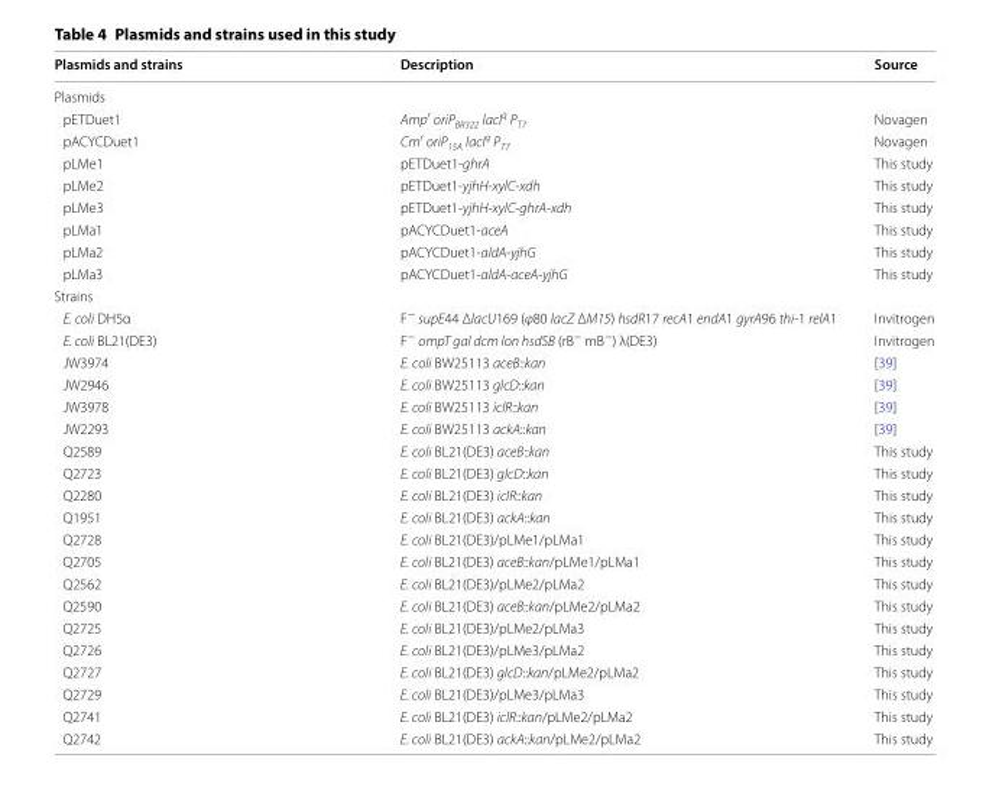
<table><thead><tr><td>Plasmids and strains</td><td>Description</td><td>Source</td></tr></thead><tbody><tr><td colspan="3">Plasmids</td></tr><tr><td>pETDuet1</td><td>Amp<sup>r</sup> oriP<sub>BR322</sub> lacI<sup>q</sup> P<sub>T7</sub></td><td>Novagen</td></tr><tr><td>pACYCDuet1</td><td>Cm<sup>r</sup> oriP<sub>15A</sub> lacI<sup>q</sup> P<sub>T7</sub></td><td>Novagen</td></tr><tr><td>pLMe1</td><td>pETDuet1-ghrA</td><td>This study</td></tr><tr><td>pLMe2</td><td>pETDuet1-yjhH-xylC-xdh</td><td>This study</td></tr><tr><td>pLMe3</td><td>pETDuet1-yjhH-xylC-ghrA-xdh</td><td>This study</td></tr><tr><td>pLMa1</td><td>pACYCDuet1-aceA</td><td>This study</td></tr><tr><td>pLMa2</td><td>pACYCDuet1-aldA-yjhG</td><td>This study</td></tr><tr><td>pLMa3</td><td>pACYCDuet1-aldA-aceA-yjhG</td><td>This study</td></tr><tr><td colspan="3">Strains</td></tr><tr><td>E. coli DH5α</td><td>F<sup>−</sup> supE44 ΔlacU169 (φ80 lacZ ΔM15) hsdR17 recA1 endA1 gyrA96 thi-1 relA1</td><td>Invitrogen</td></tr><tr><td>E. coli BL21(DE3)</td><td>F<sup>−</sup> ompT gal dcm lon hsdSB (rB<sup>−</sup> mB<sup>−</sup>) λ(DE3)</td><td>Invitrogen</td></tr><tr><td>JW3974</td><td>E. coli BW25113 aceB::kan</td><td>[39]</td></tr><tr><td>JW2946</td><td>E. coli BW25113 glcD::kan</td><td>[39]</td></tr><tr><td>JW3978</td><td>E. coli BW25113 iclR::kan</td><td>[39]</td></tr><tr><td>JW2293</td><td>E. coli BW25113 ackA::kan</td><td>[39]</td></tr><tr><td>Q2589</td><td>E. coli BL21(DE3) aceB::kan</td><td>This study</td></tr><tr><td>Q2723</td><td>E. coli BL21(DE3) glcD::kan</td><td>This study</td></tr><tr><td>Q2280</td><td>E. coli BL21(DE3) iclR::kan</td><td>This study</td></tr><tr><td>Q1951</td><td>E. coli BL21(DE3) ackA::kan</td><td>This study</td></tr><tr><td>Q2728</td><td>E. coli BL21(DE3)/pLMe1/pLMa1</td><td>This study</td></tr><tr><td>Q2705</td><td>E. coli BL21(DE3) aceB::kan/pLMe1/pLMa1</td><td>This study</td></tr><tr><td>Q2562</td><td>E. coli BL21(DE3)/pLMe2/pLMa2</td><td>This study</td></tr><tr><td>Q2590</td><td>E. coli BL21(DE3) aceB::kan/pLMe2/pLMa2</td><td>This study</td></tr><tr><td>Q2725</td><td>E. coli BL21(DE3)/pLMe2/pLMa3</td><td>This study</td></tr><tr><td>Q2726</td><td>E. coli BL21(DE3)/pLMe3/pLMa2</td><td>This study</td></tr><tr><td>Q2727</td><td>E. coli BL21(DE3) glcD::kan/pLMe2/pLMa2</td><td>This study</td></tr><tr><td>Q2729</td><td>E. coli BL21(DE3)/pLMe3/pLMa3</td><td>This study</td></tr><tr><td>Q2741</td><td>E. coli BL21(DE3) iclR::kan/pLMe2/pLMa2</td><td>This study</td></tr><tr><td>Q2742</td><td>E. coli BL21(DE3) ackA::kan/pLMe2/pLMa2</td><td>This study</td></tr></tbody></table>